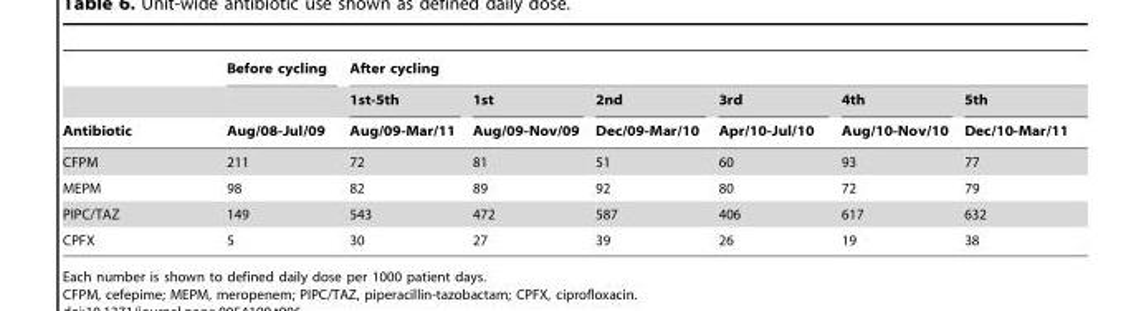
<table><thead><tr><td rowspan="3">Antibiotic</td><td rowspan="3">Before cycling Aug/08-Jul/09</td><td colspan="6">After cycling</td></tr><tr><td rowspan="2">1st-5th Aug/09-Mar/11</td><td rowspan="2">1st Aug/09-Nov/09</td><td rowspan="2">2nd Dec/09-Mar/10</td><td rowspan="2">3rd Apr/10-Jul/10</td><td rowspan="2">4th Aug/10-Nov/10</td><td rowspan="2">5th Dec/10-Mar/11</td></tr><tr></tr></thead><tbody><tr><td>CFPM</td><td>211</td><td>72</td><td>81</td><td>51</td><td>60</td><td>93</td><td>77</td></tr><tr><td>MEPM</td><td>98</td><td>82</td><td>89</td><td>92</td><td>80</td><td>72</td><td>79</td></tr><tr><td>PIPC/TAZ</td><td>149</td><td>543</td><td>472</td><td>587</td><td>406</td><td>617</td><td>632</td></tr><tr><td>CPFX</td><td>5</td><td>30</td><td>27</td><td>39</td><td>26</td><td>19</td><td>38</td></tr></tbody></table>